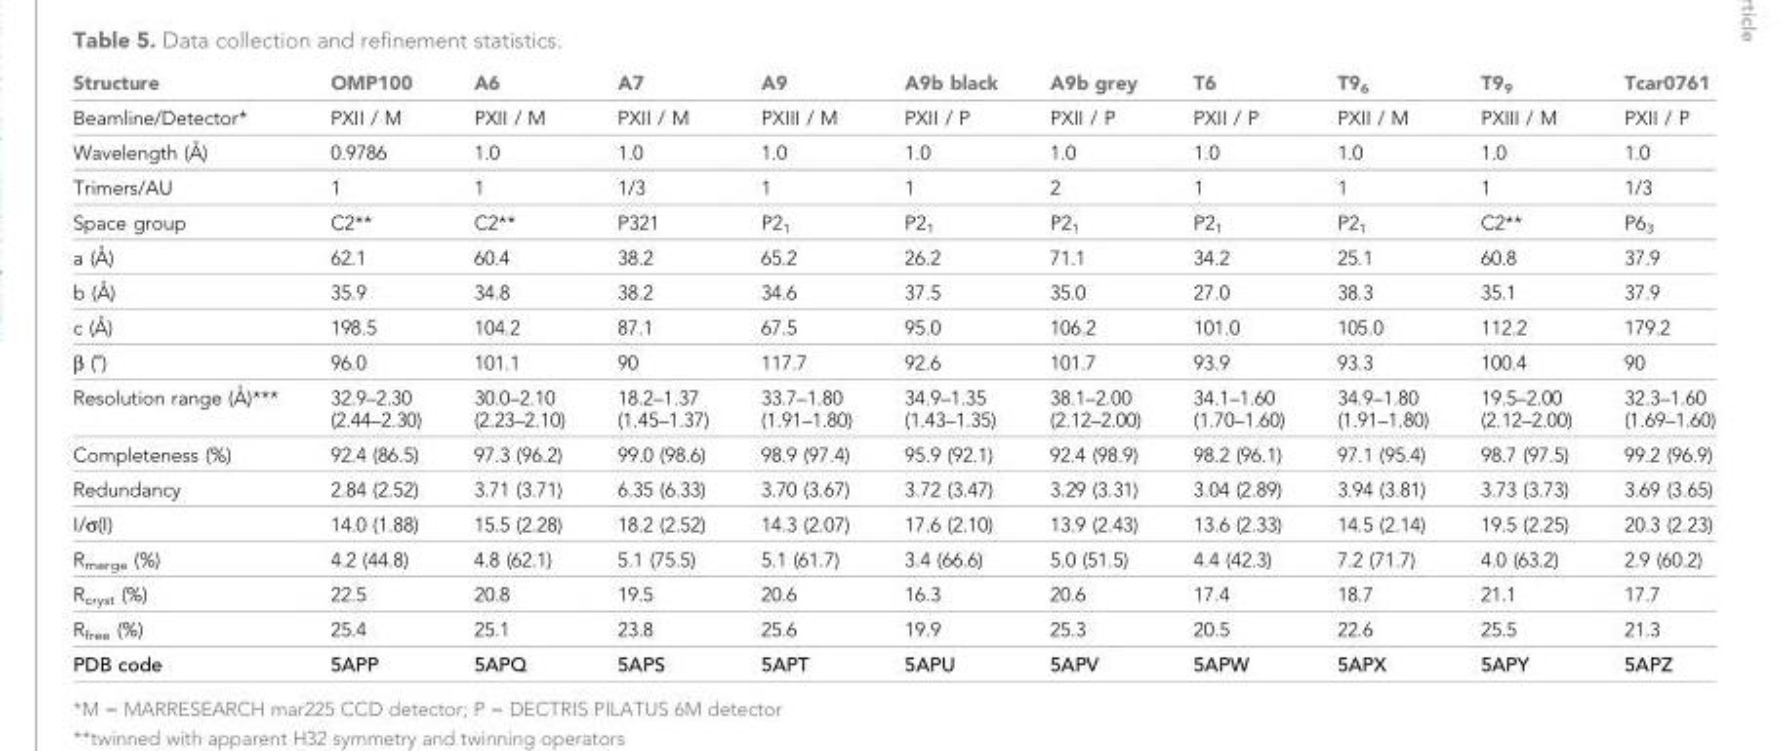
<table><thead><tr><td>Structure</td><td>OMP100</td><td>A6</td><td>A7</td><td>A9</td><td>A9b black</td><td>A9b grey</td><td>T6</td><td>T9<sub>6</sub></td><td>T9<sub>9</sub></td><td>Tcar0761</td></tr></thead><tbody><tr><td>Beamline/Detector*</td><td>PXII / M</td><td>PXII / M</td><td>PXII / M</td><td>PXIII / M</td><td>PXII / P</td><td>PXII / P</td><td>PXII / P</td><td>PXII / M</td><td>PXIII / M</td><td>PXII / P</td></tr><tr><td>Wavelength (A˚ )</td><td>0.9786</td><td>1.0</td><td>1.0</td><td>1.0</td><td>1.0</td><td>1.0</td><td>1.0</td><td>1.0</td><td>1.0</td><td>1.0</td></tr><tr><td>Trimers/AU</td><td>1</td><td>1</td><td>1/3</td><td>1</td><td>1</td><td>2</td><td>1</td><td>1</td><td>1</td><td>1/3</td></tr><tr><td>Space group</td><td>C2**</td><td>C2**</td><td>P321</td><td>P2<sub>1</sub></td><td>P2<sub>1</sub></td><td>P2<sub>1</sub></td><td>P2<sub>1</sub></td><td>P2<sub>1</sub></td><td>C2**</td><td>P6<sub>3</sub></td></tr><tr><td>a (A˚ )</td><td>62.1</td><td>60.4</td><td>38.2</td><td>65.2</td><td>26.2</td><td>71.1</td><td>34.2</td><td>25.1</td><td>60.8</td><td>37.9</td></tr><tr><td>b (A˚ )</td><td>35.9</td><td>34.8</td><td>38.2</td><td>34.6</td><td>37.5</td><td>35.0</td><td>27.0</td><td>38.3</td><td>35.1</td><td>37.9</td></tr><tr><td>c (A˚ )</td><td>198.5</td><td>104.2</td><td>87.1</td><td>67.5</td><td>95.0</td><td>106.2</td><td>101.0</td><td>105.0</td><td>112.2</td><td>179.2</td></tr><tr><td>β (˚)</td><td>96.0</td><td>101.1</td><td>90</td><td>117.7</td><td>92.6</td><td>101.7</td><td>93.9</td><td>93.3</td><td>100.4</td><td>90</td></tr><tr><td>Resolution range (A˚ )***</td><td>32.9–2.30 (2.44–2.30)</td><td>30.0–2.10 (2.23–2.10)</td><td>18.2–1.37 (1.45–1.37)</td><td>33.7–1.80 (1.91–1.80)</td><td>34.9–1.35 (1.43–1.35)</td><td>38.1–2.00 (2.12–2.00)</td><td>34.1–1.60 (1.70–1.60)</td><td>34.9–1.80 (1.91–1.80)</td><td>19.5–2.00 (2.12–2.00)</td><td>32.3–1.60 (1.69–1.60)</td></tr><tr><td>Completeness (%)</td><td>92.4 (86.5)</td><td>97.3 (96.2)</td><td>99.0 (98.6)</td><td>98.9 (97.4)</td><td>95.9 (92.1)</td><td>92.4 (98.9)</td><td>98.2 (96.1)</td><td>97.1 (95.4)</td><td>98.7 (97.5)</td><td>99.2 (96.9)</td></tr><tr><td>Redundancy</td><td>2.84 (2.52)</td><td>3.71 (3.71)</td><td>6.35 (6.33)</td><td>3.70 (3.67)</td><td>3.72 (3.47)</td><td>3.29 (3.31)</td><td>3.04 (2.89)</td><td>3.94 (3.81)</td><td>3.73 (3.73)</td><td>3.69 (3.65)</td></tr><tr><td>I/σ(I)</td><td>14.0 (1.88)</td><td>15.5 (2.28)</td><td>18.2 (2.52)</td><td>14.3 (2.07)</td><td>17.6 (2.10)</td><td>13.9 (2.43)</td><td>13.6 (2.33)</td><td>14.5 (2.14)</td><td>19.5 (2.25)</td><td>20.3 (2.23)</td></tr><tr><td>R<sub>merge</sub> (%)</td><td>4.2 (44.8)</td><td>4.8 (62.1)</td><td>5.1 (75.5)</td><td>5.1 (61.7)</td><td>3.4 (66.6)</td><td>5.0 (51.5)</td><td>4.4 (42.3)</td><td>7.2 (71.7)</td><td>4.0 (63.2)</td><td>2.9 (60.2)</td></tr><tr><td>R<sub>cryst</sub> (%)</td><td>22.5</td><td>20.8</td><td>19.5</td><td>20.6</td><td>16.3</td><td>20.6</td><td>17.4</td><td>18.7</td><td>21.1</td><td>17.7</td></tr><tr><td>R<sub>free</sub> (%)</td><td>25.4</td><td>25.1</td><td>23.8</td><td>25.6</td><td>19.9</td><td>25.3</td><td>20.5</td><td>22.6</td><td>25.5</td><td>21.3</td></tr><tr><td>PDB code</td><td>5APP</td><td>5APQ</td><td>5APS</td><td>5APT</td><td>5APU</td><td>5APV</td><td>5APW</td><td>5APX</td><td>5APY</td><td>5APZ</td></tr></tbody></table>